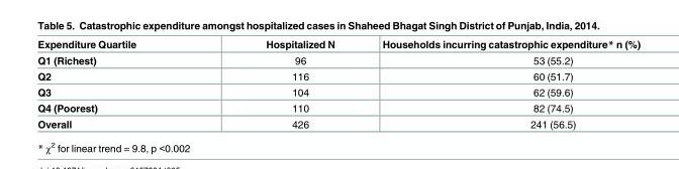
<table><thead><tr><td>Expenditure Quartile</td><td>Hospitalized N</td><td>Households incurring catastrophic expenditure* n (%)</td></tr></thead><tbody><tr><td>Q1 (Richest)</td><td>96</td><td>53 (55.2)</td></tr><tr><td>Q2</td><td>116</td><td>60 (51.7)</td></tr><tr><td>Q3</td><td>104</td><td>62 (59.6)</td></tr><tr><td>Q4 (Poorest)</td><td>110</td><td>82 (74.5)</td></tr><tr><td>Overall</td><td>426</td><td>241 (56.5)</td></tr></tbody></table>